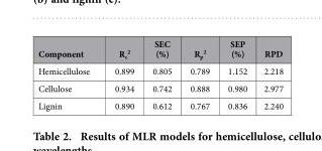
<table><thead><tr><td>Component</td><td>R<sub>c</sub> <sup>2</sup></td><td>SEC (%)</td><td>R<sub>p</sub> <sup>2</sup></td><td>SEP (%)</td><td>RPD</td></tr></thead><tbody><tr><td>Hemicellulose</td><td>0.899</td><td>0.805</td><td>0.789</td><td>1.152</td><td>2.218</td></tr><tr><td>Cellulose</td><td>0.934</td><td>0.742</td><td>0.888</td><td>0.980</td><td>2.977</td></tr><tr><td>Lignin</td><td>0.890</td><td>0.612</td><td>0.767</td><td>0.836</td><td>2.240</td></tr></tbody></table>